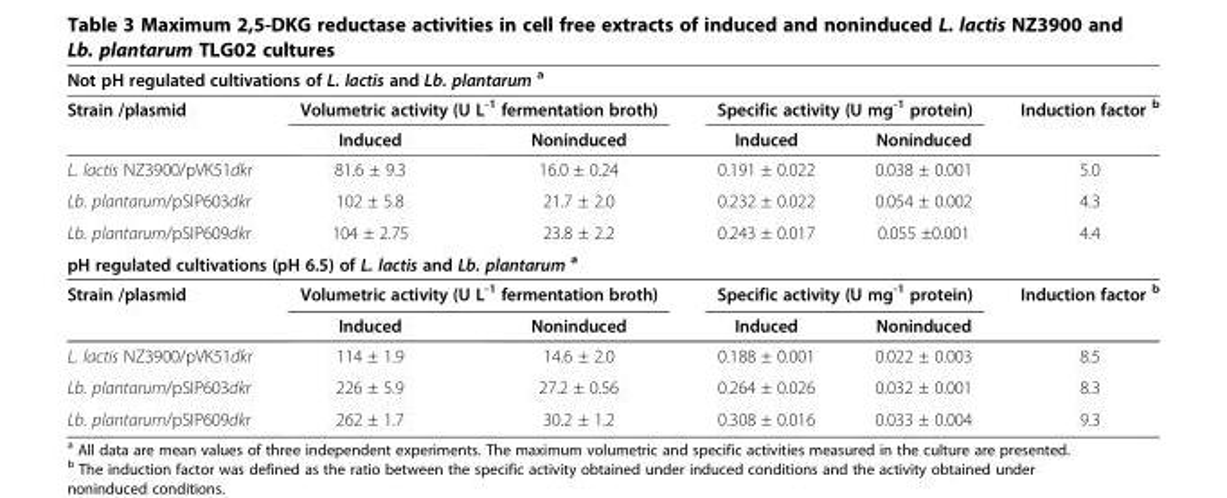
<table><thead><tr><td colspan="6">Not pH regulated cultivations of L. lactis and Lb. plantarum <sup>a</sup></td></tr><tr><td rowspan="2">Strain /plasmid</td><td colspan="2">Volumetric activity (U L<sup>-1</sup> fermentation broth)</td><td colspan="2">Specific activity (U mg<sup>-1</sup> protein)</td><td rowspan="2">Induction factor <sup>b</sup></td></tr><tr><td>Induced</td><td>Noninduced</td><td>Induced</td><td>Noninduced</td></tr></thead><tbody><tr><td>L. lactis NZ3900/pVK51dkr</td><td>81.6 ± 9.3</td><td>16.0 ± 0.24</td><td>0.191 ± 0.022</td><td>0.038 ± 0.001</td><td>5.0</td></tr><tr><td>Lb. plantarum/pSIP603dkr</td><td>102 ± 5.8</td><td>21.7 ± 2.0</td><td>0.232 ± 0.022</td><td>0.054 ± 0.002</td><td>4.3</td></tr><tr><td>Lb. plantarum/pSIP609dkr</td><td>104 ± 2.75</td><td>23.8 ± 2.2</td><td>0.243 ± 0.017</td><td>0.055 ±0.001</td><td>4.4</td></tr><tr><td colspan="6">pH regulated cultivations (pH 6.5) of L. lactis and Lb. plantarum <sup>a</sup></td></tr><tr><td rowspan="2">Strain /plasmid</td><td colspan="2">Volumetric activity (U L<sup>-1</sup> fermentation broth)</td><td colspan="2">Specific activity (U mg<sup>-1</sup> protein)</td><td>Induction factor <sup>b</sup></td></tr><tr><td>Induced</td><td>Noninduced</td><td>Induced</td><td>Noninduced</td><td></td></tr><tr><td>L. lactis NZ3900/pVK51dkr</td><td>114 ± 1.9</td><td>14.6 ± 2.0</td><td>0.188 ± 0.001</td><td>0.022 ± 0.003</td><td>8.5</td></tr><tr><td>Lb. plantarum/pSIP603dkr</td><td>226 ± 5.9</td><td>27.2 ± 0.56</td><td>0.264 ± 0.026</td><td>0.032 ± 0.001</td><td>8.3</td></tr><tr><td>Lb. plantarum/pSIP609dkr</td><td>262 ± 1.7</td><td>30.2 ± 1.2</td><td>0.308 ± 0.016</td><td>0.033 ± 0.004</td><td>9.3</td></tr></tbody></table>